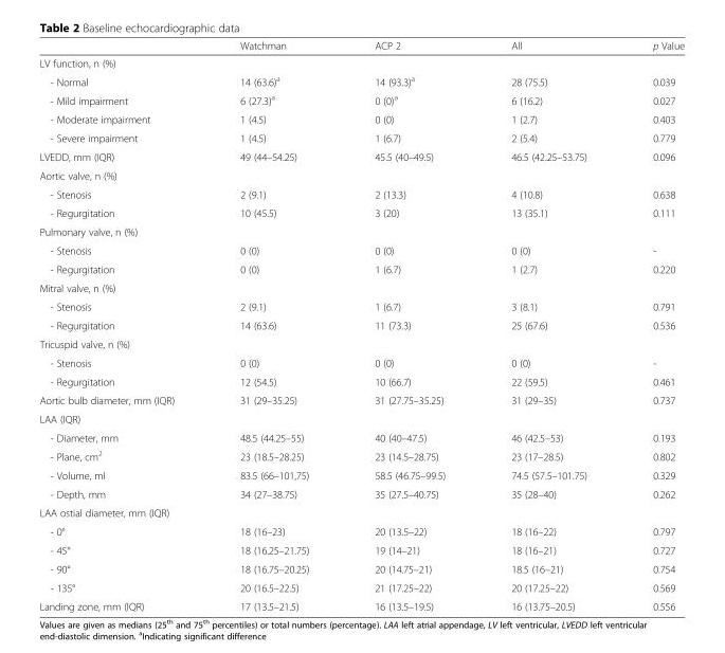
<table><thead><tr><td></td><td>Watchman</td><td>ACP 2</td><td>All</td><td>p Value</td></tr></thead><tbody><tr><td colspan="5">LV function, n (%)</td></tr><tr><td>- Normal</td><td>14 (63.6)<sup>a</sup></td><td>14 (93.3)<sup>a</sup></td><td>28 (75.5)</td><td>0.039</td></tr><tr><td>- Mild impairment</td><td>6 (27.3)<sup>a</sup></td><td>0 (0)<sup>a</sup></td><td>6 (16.2)</td><td>0.027</td></tr><tr><td>- Moderate impairment</td><td>1 (4.5)</td><td>0 (0)</td><td>1 (2.7)</td><td>0.403</td></tr><tr><td>- Severe impairment</td><td>1 (4.5)</td><td>1 (6.7)</td><td>2 (5.4)</td><td>0.779</td></tr><tr><td>LVEDD, mm (IQR)</td><td>49 (44–54.25)</td><td>45.5 (40–49.5)</td><td>46.5 (42.25–53.75)</td><td>0.096</td></tr><tr><td colspan="5">Aortic valve, n (%)</td></tr><tr><td>- Stenosis</td><td>2 (9.1)</td><td>2 (13.3)</td><td>4 (10.8)</td><td>0.638</td></tr><tr><td>- Regurgitation</td><td>10 (45.5)</td><td>3 (20)</td><td>13 (35.1)</td><td>0.111</td></tr><tr><td colspan="5">Pulmonary valve, n (%)</td></tr><tr><td>- Stenosis</td><td>0 (0)</td><td>0 (0)</td><td>0 (0)</td><td>-</td></tr><tr><td>- Regurgitation</td><td>0 (0)</td><td>1 (6.7)</td><td>1 (2.7)</td><td>0.220</td></tr><tr><td colspan="5">Mitral valve, n (%)</td></tr><tr><td>- Stenosis</td><td>2 (9.1)</td><td>1 (6.7)</td><td>3 (8.1)</td><td>0.791</td></tr><tr><td>- Regurgitation</td><td>14 (63.6)</td><td>11 (73.3)</td><td>25 (67.6)</td><td>0.536</td></tr><tr><td colspan="5">Tricuspid valve, n (%)</td></tr><tr><td>- Stenosis</td><td>0 (0)</td><td>0 (0)</td><td>0 (0)</td><td>-</td></tr><tr><td>- Regurgitation</td><td>12 (54.5)</td><td>10 (66.7)</td><td>22 (59.5)</td><td>0.461</td></tr><tr><td>Aortic bulb diameter, mm (IQR)</td><td>31 (29–35.25)</td><td>31 (27.75–35.25)</td><td>31 (29–35)</td><td>0.737</td></tr><tr><td colspan="5">LAA (IQR)</td></tr><tr><td>- Diameter, mm</td><td>48.5 (44.25–55)</td><td>40 (40–47.5)</td><td>46 (42.5–53)</td><td>0.193</td></tr><tr><td>- Plane, cm<sup>2</sup></td><td>23 (18.5–28.25)</td><td>23 (14.5–28.75)</td><td>23 (17–28.5)</td><td>0.802</td></tr><tr><td>- Volume, ml</td><td>83.5 (66–101,75)</td><td>58.5 (46.75–99.5)</td><td>74.5 (57.5–101.75)</td><td>0.329</td></tr><tr><td>- Depth, mm</td><td>34 (27–38.75)</td><td>35 (27.5–40.75)</td><td>35 (28–40)</td><td>0.262</td></tr><tr><td colspan="5">LAA ostial diameter, mm (IQR)</td></tr><tr><td>- 0°</td><td>18 (16–23)</td><td>20 (13.5–22)</td><td>18 (16–22)</td><td>0.797</td></tr><tr><td>- 45°</td><td>18 (16.25–21.75)</td><td>19 (14–21)</td><td>18 (16–21)</td><td>0.727</td></tr><tr><td>- 90°</td><td>18 (16.75–20.25)</td><td>20 (14.75–21)</td><td>18.5 (16–21)</td><td>0.754</td></tr><tr><td>- 135°</td><td>20 (16.5–22.5)</td><td>21 (17.25–22)</td><td>20 (17.25–22)</td><td>0.569</td></tr><tr><td>Landing zone, mm (IQR)</td><td>17 (13.5–21.5)</td><td>16 (13.5–19.5)</td><td>16 (13.75–20.5)</td><td>0.556</td></tr></tbody></table>